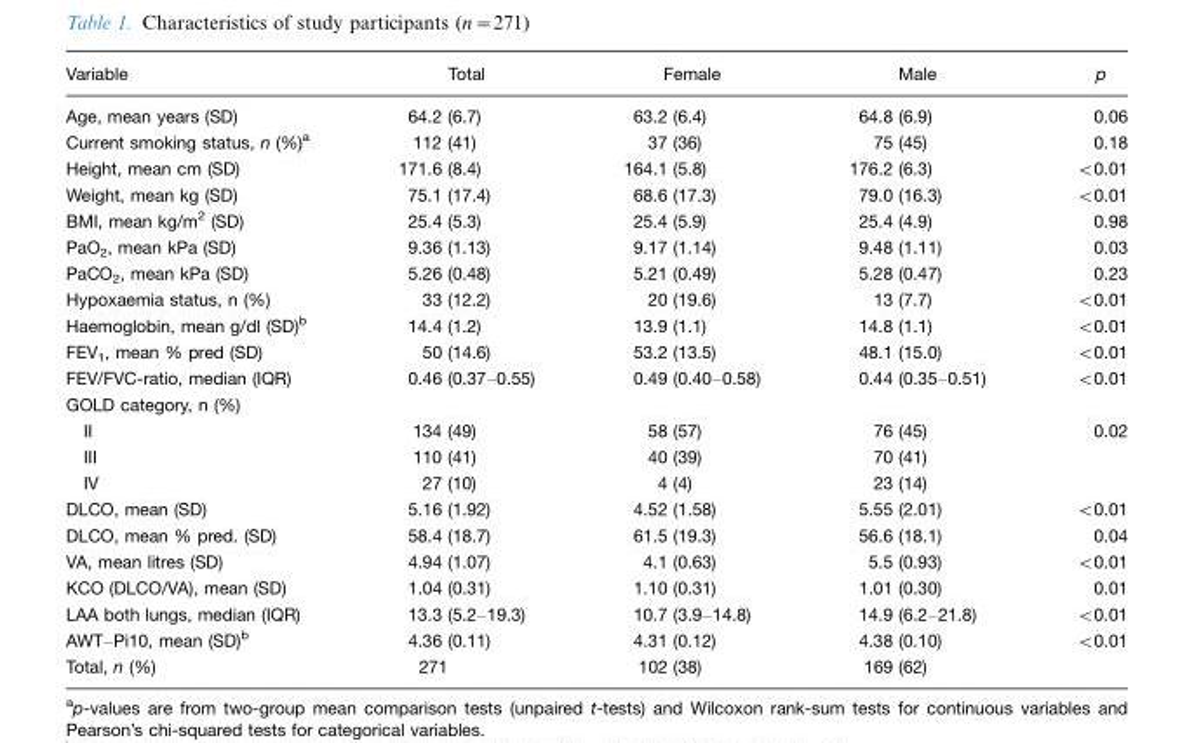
<table><thead><tr><td>Variable</td><td>Total</td><td>Female</td><td>Male</td><td>p</td></tr></thead><tbody><tr><td>Age, mean years (SD)</td><td>64.2 (6.7)</td><td>63.2 (6.4)</td><td>64.8 (6.9)</td><td>0.06</td></tr><tr><td>Current smoking status, n (%)<sup>a</sup></td><td>112 (41)</td><td>37 (36)</td><td>75 (45)</td><td>0.18</td></tr><tr><td>Height, mean cm (SD)</td><td>171.6 (8.4)</td><td>164.1 (5.8)</td><td>176.2 (6.3)</td><td>&lt;0.01</td></tr><tr><td>Weight, mean kg (SD)</td><td>75.1 (17.4)</td><td>68.6 (17.3)</td><td>79.0 (16.3)</td><td>&lt;0.01</td></tr><tr><td>BMI, mean kg/m<sup>2</sup> (SD)</td><td>25.4 (5.3)</td><td>25.4 (5.9)</td><td>25.4 (4.9)</td><td>0.98</td></tr><tr><td>PaO<sub>2</sub>, mean kPa (SD)</td><td>9.36 (1.13)</td><td>9.17 (1.14)</td><td>9.48 (1.11)</td><td>0.03</td></tr><tr><td>PaCO<sub>2</sub>, mean kPa (SD)</td><td>5.26 (0.48)</td><td>5.21 (0.49)</td><td>5.28 (0.47)</td><td>0.23</td></tr><tr><td>Hypoxaemia status, n (%)</td><td>33 (12.2)</td><td>20 (19.6)</td><td>13 (7.7)</td><td>&lt;0.01</td></tr><tr><td>Haemoglobin, mean g/dl (SD)<sup>b</sup></td><td>14.4 (1.2)</td><td>13.9 (1.1)</td><td>14.8 (1.1)</td><td>&lt;0.01</td></tr><tr><td>FEV<sub>1</sub>, mean % pred (SD)</td><td>50 (14.6)</td><td>53.2 (13.5)</td><td>48.1 (15.0)</td><td>&lt;0.01</td></tr><tr><td>FEV/FVC-ratio, median (IQR)</td><td>0.46 (0.37–0.55)</td><td>0.49 (0.40–0.58)</td><td>0.44 (0.35–0.51)</td><td>&lt;0.01</td></tr><tr><td colspan="5">GOLD category, n (%)</td></tr><tr><td>II</td><td>134 (49)</td><td>58 (57)</td><td>76 (45)</td><td>0.02</td></tr><tr><td>III</td><td>110 (41)</td><td>40 (39)</td><td>70 (41)</td><td></td></tr><tr><td>IV</td><td>27 (10)</td><td>4 (4)</td><td>23 (14)</td><td></td></tr><tr><td>DLCO, mean (SD)</td><td>5.16 (1.92)</td><td>4.52 (1.58)</td><td>5.55 (2.01)</td><td>&lt;0.01</td></tr><tr><td>DLCO, mean % pred. (SD)</td><td>58.4 (18.7)</td><td>61.5 (19.3)</td><td>56.6 (18.1)</td><td>0.04</td></tr><tr><td>VA, mean litres (SD)</td><td>4.94 (1.07)</td><td>4.1 (0.63)</td><td>5.5 (0.93)</td><td>&lt;0.01</td></tr><tr><td>KCO (DLCO/VA), mean (SD)</td><td>1.04 (0.31)</td><td>1.10 (0.31)</td><td>1.01 (0.30)</td><td>0.01</td></tr><tr><td>LAA both lungs, median (IQR)</td><td>13.3 (5.2–19.3)</td><td>10.7 (3.9–14.8)</td><td>14.9 (6.2–21.8)</td><td>&lt;0.01</td></tr><tr><td>AWT–Pi10, mean (SD)<sup>b</sup></td><td>4.36 (0.11)</td><td>4.31 (0.12)</td><td>4.38 (0.10)</td><td>&lt;0.01</td></tr><tr><td>Total, n (%)</td><td>271</td><td>102 (38)</td><td>169 (62)</td><td></td></tr></tbody></table>